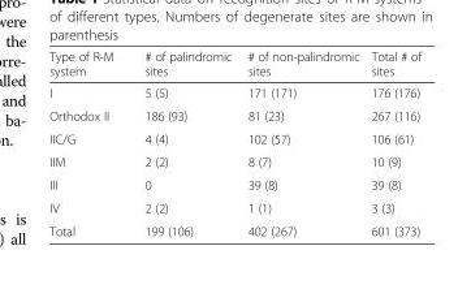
<table><thead><tr><td>Type of R-M system</td><td># of palindromic sites</td><td># of non-palindromic sites</td><td>Total # of sites</td></tr></thead><tbody><tr><td>I</td><td>5 (5)</td><td>171 (171)</td><td>176 (176)</td></tr><tr><td>Orthodox II</td><td>186 (93)</td><td>81 (23)</td><td>267 (116)</td></tr><tr><td>IIC/G</td><td>4 (4)</td><td>102 (57)</td><td>106 (61)</td></tr><tr><td>IIM</td><td>2 (2)</td><td>8 (7)</td><td>10 (9)</td></tr><tr><td>III</td><td>0</td><td>39 (8)</td><td>39 (8)</td></tr><tr><td>IV</td><td>2 (2)</td><td>1 (1)</td><td>3 (3)</td></tr><tr><td>Total</td><td>199 (106)</td><td>402 (267)</td><td>601 (373)</td></tr></tbody></table>